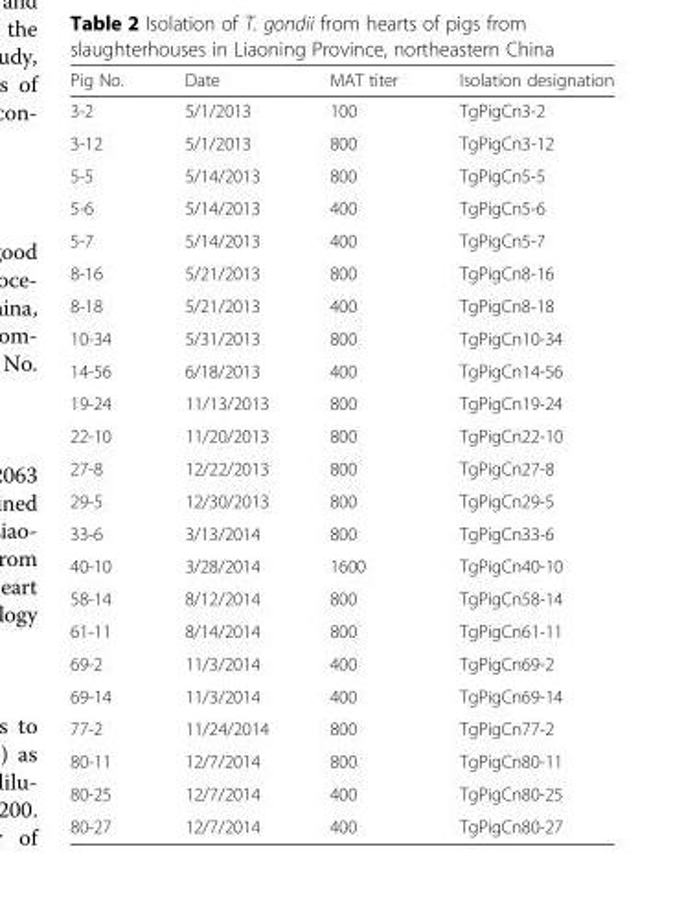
<table><thead><tr><td>Pig No.</td><td>Date</td><td>MAT titer</td><td>Isolation designation</td></tr></thead><tbody><tr><td>3-2</td><td>5/1/2013</td><td>100</td><td>TgPigCn3-2</td></tr><tr><td>3-12</td><td>5/1/2013</td><td>800</td><td>TgPigCn3-12</td></tr><tr><td>5-5</td><td>5/14/2013</td><td>800</td><td>TgPigCn5-5</td></tr><tr><td>5-6</td><td>5/14/2013</td><td>400</td><td>TgPigCn5-6</td></tr><tr><td>5-7</td><td>5/14/2013</td><td>400</td><td>TgPigCn5-7</td></tr><tr><td>8-16</td><td>5/21/2013</td><td>800</td><td>TgPigCn8-16</td></tr><tr><td>8-18</td><td>5/21/2013</td><td>400</td><td>TgPigCn8-18</td></tr><tr><td>10-34</td><td>5/31/2013</td><td>800</td><td>TgPigCn10-34</td></tr><tr><td>14-56</td><td>6/18/2013</td><td>400</td><td>TgPigCn14-56</td></tr><tr><td>19-24</td><td>11/13/2013</td><td>800</td><td>TgPigCn19-24</td></tr><tr><td>22-10</td><td>11/20/2013</td><td>800</td><td>TgPigCn22-10</td></tr><tr><td>27-8</td><td>12/22/2013</td><td>800</td><td>TgPigCn27-8</td></tr><tr><td>29-5</td><td>12/30/2013</td><td>800</td><td>TgPigCn29-5</td></tr><tr><td>33-6</td><td>3/13/2014</td><td>800</td><td>TgPigCn33-6</td></tr><tr><td>40-10</td><td>3/28/2014</td><td>1600</td><td>TgPigCn40-10</td></tr><tr><td>58-14</td><td>8/12/2014</td><td>800</td><td>TgPigCn58-14</td></tr><tr><td>61-11</td><td>8/14/2014</td><td>800</td><td>TgPigCn61-11</td></tr><tr><td>69-2</td><td>11/3/2014</td><td>400</td><td>TgPigCn69-2</td></tr><tr><td>69-14</td><td>11/3/2014</td><td>400</td><td>TgPigCn69-14</td></tr><tr><td>77-2</td><td>11/24/2014</td><td>800</td><td>TgPigCn77-2</td></tr><tr><td>80-11</td><td>12/7/2014</td><td>800</td><td>TgPigCn80-11</td></tr><tr><td>80-25</td><td>12/7/2014</td><td>400</td><td>TgPigCn80-25</td></tr><tr><td>80-27</td><td>12/7/2014</td><td>400</td><td>TgPigCn80-27</td></tr></tbody></table>